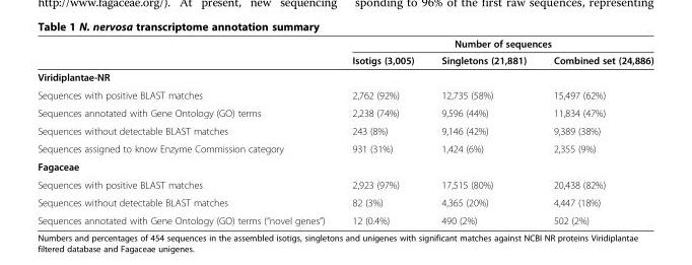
<table><thead><tr><td rowspan="2"></td><td colspan="3">Number of sequences</td></tr><tr><td>Isotigs (3,005)</td><td>Singletons (21,881)</td><td>Combined set (24,886)</td></tr></thead><tbody><tr><td colspan="4">Viridiplantae-NR</td></tr><tr><td>Sequences with positive BLAST matches</td><td>2,762 (92%)</td><td>12,735 (58%)</td><td>15,497 (62%)</td></tr><tr><td>Sequences annotated with Gene Ontology (GO) terms</td><td>2,238 (74%)</td><td>9,596 (44%)</td><td>11,834 (47%)</td></tr><tr><td>Sequences without detectable BLAST matches</td><td>243 (8%)</td><td>9,146 (42%)</td><td>9,389 (38%)</td></tr><tr><td>Sequences assigned to know Enzyme Commission category</td><td>931 (31%)</td><td>1,424 (6%)</td><td>2,355 (9%)</td></tr><tr><td colspan="4">Fagaceae</td></tr><tr><td>Sequences with positive BLAST matches</td><td>2,923 (97%)</td><td>17,515 (80%)</td><td>20,438 (82%)</td></tr><tr><td>Sequences without detectable BLAST matches</td><td>82 (3%)</td><td>4,365 (20%)</td><td>4,447 (18%)</td></tr><tr><td>Sequences annotated with Gene Ontology (GO) terms (“novel genes”)</td><td>12 (0.4%)</td><td>490 (2%)</td><td>502 (2%)</td></tr></tbody></table>